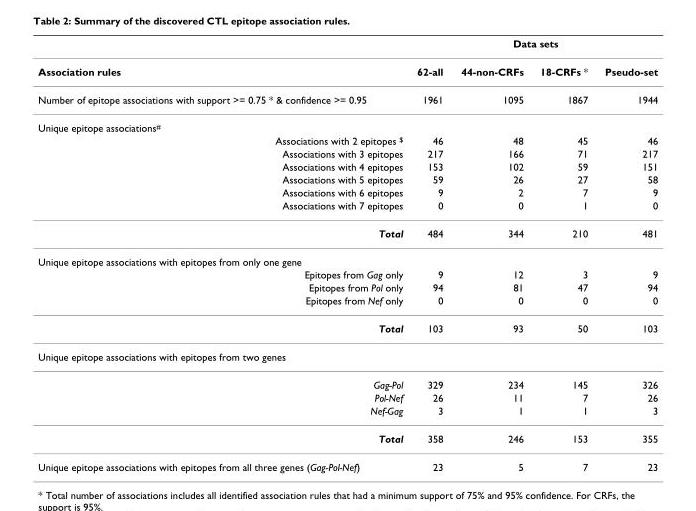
<table><thead><tr><td rowspan="2">Association rules</td><td colspan="4">Data sets</td></tr><tr><td>62-all</td><td>44-non-CRFs</td><td>18-CRFs *</td><td>Pseudo-set</td></tr></thead><tbody><tr><td>Number of epitope associations with support &gt;= 0.75 * &amp; confidence &gt;= 0.95</td><td>1961</td><td>1095</td><td>1867</td><td>1944</td></tr><tr><td colspan="5">Unique epitope associations<sup>#</sup></td></tr><tr><td>Associations with 2 epitopes <sup>$</sup></td><td>46</td><td>48</td><td>45</td><td>46</td></tr><tr><td>Associations with 3 epitopes</td><td>217</td><td>166</td><td>71</td><td>217</td></tr><tr><td>Associations with 4 epitopes</td><td>153</td><td>102</td><td>59</td><td>151</td></tr><tr><td>Associations with 5 epitopes</td><td>59</td><td>26</td><td>27</td><td>58</td></tr><tr><td>Associations with 6 epitopes</td><td>9</td><td>2</td><td>7</td><td>9</td></tr><tr><td>Associations with 7 epitopes</td><td>0</td><td>0</td><td>1</td><td>0</td></tr><tr><td>Total</td><td>484</td><td>344</td><td>210</td><td>481</td></tr><tr><td colspan="5">Unique epitope associations with epitopes from only one gene</td></tr><tr><td>Epitopes from Gag only</td><td>9</td><td>12</td><td>3</td><td>9</td></tr><tr><td>Epitopes from Pol only</td><td>94</td><td>81</td><td>47</td><td>94</td></tr><tr><td>Epitopes from Nef only</td><td>0</td><td>0</td><td>0</td><td>0</td></tr><tr><td>Total</td><td>103</td><td>93</td><td>50</td><td>103</td></tr><tr><td colspan="5">Unique epitope associations with epitopes from two genes</td></tr><tr><td>Gag-Pol</td><td>329</td><td>234</td><td>145</td><td>326</td></tr><tr><td>Pol-Nef</td><td>26</td><td>11</td><td>7</td><td>26</td></tr><tr><td>Nef-Gag</td><td>3</td><td>1</td><td>1</td><td>3</td></tr><tr><td>Total</td><td>358</td><td>246</td><td>153</td><td>355</td></tr><tr><td>Unique epitope associations with epitopes from all three genes (Gag-Pol-Nef)</td><td>23</td><td>5</td><td>7</td><td>23</td></tr></tbody></table>